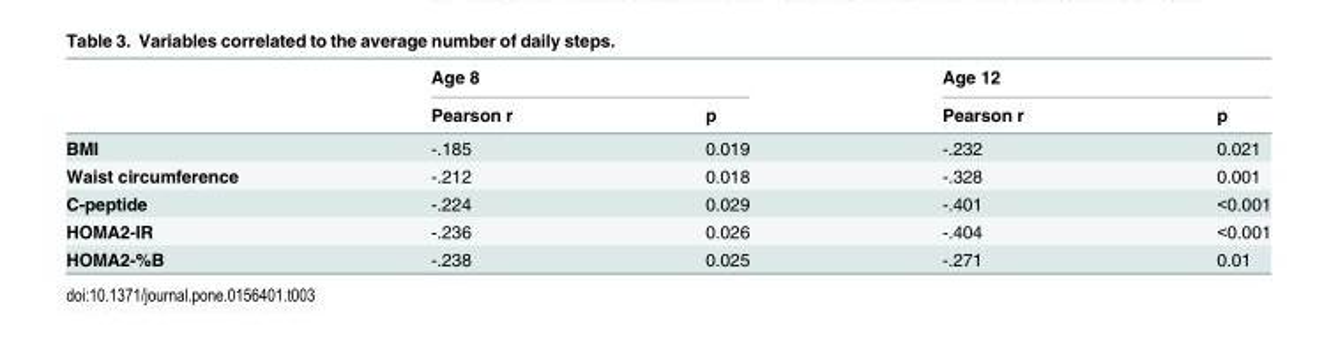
<table><thead><tr><td rowspan="2"></td><td colspan="2">Age 8</td><td colspan="2">Age 12</td></tr><tr><td>Pearson r</td><td>p</td><td>Pearson r</td><td>p</td></tr></thead><tbody><tr><td>BMI</td><td>-.185</td><td>0.019</td><td>-.232</td><td>0.021</td></tr><tr><td>Waist circumference</td><td>-.212</td><td>0.018</td><td>-.328</td><td>0.001</td></tr><tr><td>C-peptide</td><td>-.224</td><td>0.029</td><td>-.401</td><td>&lt;0.001</td></tr><tr><td>HOMA2-IR</td><td>-.236</td><td>0.026</td><td>-.404</td><td>&lt;0.001</td></tr><tr><td>HOMA2-%B</td><td>-.238</td><td>0.025</td><td>-.271</td><td>0.01</td></tr></tbody></table>